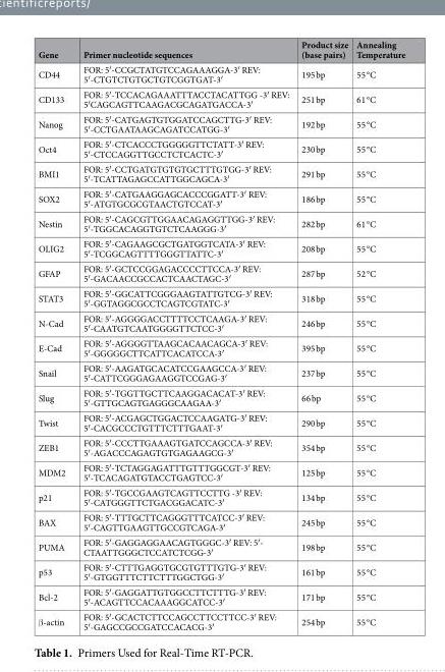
<table><thead><tr><td>Gene</td><td>Primer nucleotide sequences</td><td>Product size (base pairs)</td><td>Annealing Temperature</td></tr></thead><tbody><tr><td>CD44</td><td>FOR: 5′-CCGCTATGTCCAGAAAGGA-3′ REV: 5′-CTGTCTGTGCTGTCGGTGAT-3′</td><td>195 bp</td><td>55 °C</td></tr><tr><td>CD133</td><td>FOR: 5′-TCCACAGAAATTTACCTACATTGG -3′ REV: 5′CAGCAGTTCAAGACGCAGATGACCA-3′</td><td>251 bp</td><td>61 °C</td></tr><tr><td>Nanog</td><td>FOR: 5′-CATGAGTGTGGATCCAGCTTG-3′ REV: 5′-CCTGAATAAGCAGATCCATGG-3′</td><td>192 bp</td><td>55 °C</td></tr><tr><td>Oct4</td><td>FOR: 5′-CTCACCCTGGGGGTTCTATT-3′ REV: 5′-CTCCAGGTTGCCTCTCACTC-3′</td><td>230 bp</td><td>55 °C</td></tr><tr><td>BMI1</td><td>FOR: 5′-CCTGATGTGTGTGCTTTGTGG-3′ REV: 5′-TCATTAGAGCCATTGGCAGCA-3′</td><td>291 bp</td><td>55 °C</td></tr><tr><td>SOX2</td><td>FOR: 5′-CATGAAGGAGCACCCGGATT-3′ REV: 5′-ATGTGCGCGTAACTGTCCAT-3′</td><td>186 bp</td><td>55 °C</td></tr><tr><td>Nestin</td><td>FOR: 5′-CAGCGTTGGAACAGAGGTTGG-3′ REV: 5′-TGGCACAGGTGTCTCAAGGG-3′</td><td>282 bp</td><td>61 °C</td></tr><tr><td>OLIG2</td><td>FOR: 5′-CAGAAGCGCTGATGGTCATA-3′ REV: 5′-TCGGCAGTTTTGGGTTATTC-3′</td><td>208 bp</td><td>55 °C</td></tr><tr><td>GFAP</td><td>FOR: 5′-GCTCCGGAGACCCCTTCCA-3′ REV: 5′-GACAACCGCCACTCAACTAGC-3′</td><td>287 bp</td><td>52 °C</td></tr><tr><td>STAT3</td><td>FOR: 5′-GGCATTCGGGAAGTATTGTCG-3′ REV: 5′-GGTAGGCGCCTCAGTCGTATC-3′</td><td>318 bp</td><td>55 °C</td></tr><tr><td>N-Cad</td><td>FOR: 5′-AGGGGACCTTTTCCTCAAGA-3′ REV: 5′-CAATGTCAATGGGGTTCTCC-3′</td><td>246 bp</td><td>55 °C</td></tr><tr><td>E-Cad</td><td>FOR: 5′-AGGGGTTAAGCACAACAGCA-3′ REV: 5′-GGGGGCTTCATTCACATCCA-3′</td><td>395 bp</td><td>55 °C</td></tr><tr><td>Snail</td><td>FOR: 5′-AAGATGCACATCCGAAGCCA-3′ REV: 5′-CATTCGGGAGAAGGTCCGAG-3′</td><td>237 bp</td><td>55 °C</td></tr><tr><td>Slug</td><td>FOR: 5′-TGGTTGCTTCAAGGACACAT-3′ REV: 5′-GTTGCAGTGAGGGCAAGAA-3′</td><td>66 bp</td><td>55 °C</td></tr><tr><td>Twist</td><td>FOR: 5′-ACGAGCTGGACTCCAAGATG-3′ REV: 5′-CACGCCCTGTTTCTTTGAAT-3′</td><td>290 bp</td><td>55 °C</td></tr><tr><td>ZEB1</td><td>FOR: 5′-CCCTTGAAAGTGATCCAGCCA-3′ REV: 5′-AGACCCAGAGTGTGAGAAGCG-3′</td><td>354 bp</td><td>55 °C</td></tr><tr><td>MDM2</td><td>FOR: 5′-TCTAGGAGATTTGTTTGGCGT-3′ REV: 5′-TCACAGATGTACCTGAGTCC-3′</td><td>125 bp</td><td>55 °C</td></tr><tr><td>p21</td><td>FOR: 5′-TGCCGAAGTCAGTTCCTTG -3′ REV: 5′-CATGGGTTCTGACGGACATC-3′</td><td>134 bp</td><td>55 °C</td></tr><tr><td>BAX</td><td>FOR: 5′-TTTGCTTCAGGGTTTCATCC-3′ REV: 5′-CAGTTGAAGTTGCCGTCAGA-3′</td><td>245 bp</td><td>55 °C</td></tr><tr><td>PUMA</td><td>FOR: 5′-GAGGAGGAACAGTGGGC-3′ REV: 5′- CTAATTGGGCTCCATCTCGG-3′</td><td>198 bp</td><td>55 °C</td></tr><tr><td>p53</td><td>FOR: 5′-CTTTGAGGTGCGTGTTTGTG-3′ REV: 5′-GTGGTTTCTTCTTTGGCTGG-3′</td><td>161 bp</td><td>55 °C</td></tr><tr><td>Bcl-2</td><td>FOR: 5′-GAGGATTGTGGCCTTCTTTG-3′ REV: 5′-ACAGTTCCACAAAGGCATCC-3′</td><td>171 bp</td><td>55 °C</td></tr><tr><td>β-actin</td><td>FOR: 5′-GCACTCTTCCAGCCTTCCTTCC-3′ REV: 5′-GAGCCGCCGATCCACACG-3′</td><td>254 bp</td><td>55 °C</td></tr></tbody></table>